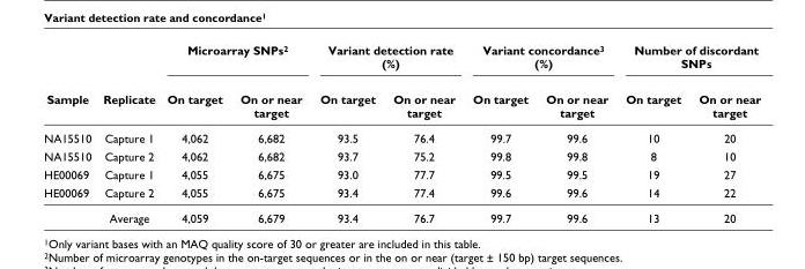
<table><thead><tr><td rowspan="2">Sample</td><td rowspan="2">Replicate</td><td colspan="2">Microarray SNPs<sup>2</sup></td><td colspan="2">Variant detection rate (%)</td><td colspan="2">Variant concordance<sup>3</sup> (%)</td><td colspan="2">Number of discordant SNPs</td></tr><tr><td>On target</td><td>On or near target</td><td>On target</td><td>On or near target</td><td>On target</td><td>On or near target</td><td>On target</td><td>On or near target</td></tr></thead><tbody><tr><td>NA15510</td><td>Capture 1</td><td>4,062</td><td>6,682</td><td>93.5</td><td>76.4</td><td>99.7</td><td>99.6</td><td>10</td><td>20</td></tr><tr><td>NA15510</td><td>Capture 2</td><td>4,062</td><td>6,682</td><td>93.7</td><td>75.2</td><td>99.8</td><td>99.8</td><td>8</td><td>10</td></tr><tr><td>HE00069</td><td>Capture 1</td><td>4,055</td><td>6,675</td><td>93.0</td><td>77.7</td><td>99.5</td><td>99.5</td><td>19</td><td>27</td></tr><tr><td rowspan="2">HE00069</td><td>Capture 2</td><td>4,055</td><td>6,675</td><td>93.4</td><td>77.4</td><td>99.6</td><td>99.6</td><td>14</td><td>22</td></tr><tr><td>Average</td><td>4,059</td><td>6,679</td><td>93.4</td><td>76.7</td><td>99.7</td><td>99.6</td><td>13</td><td>20</td></tr></tbody></table>